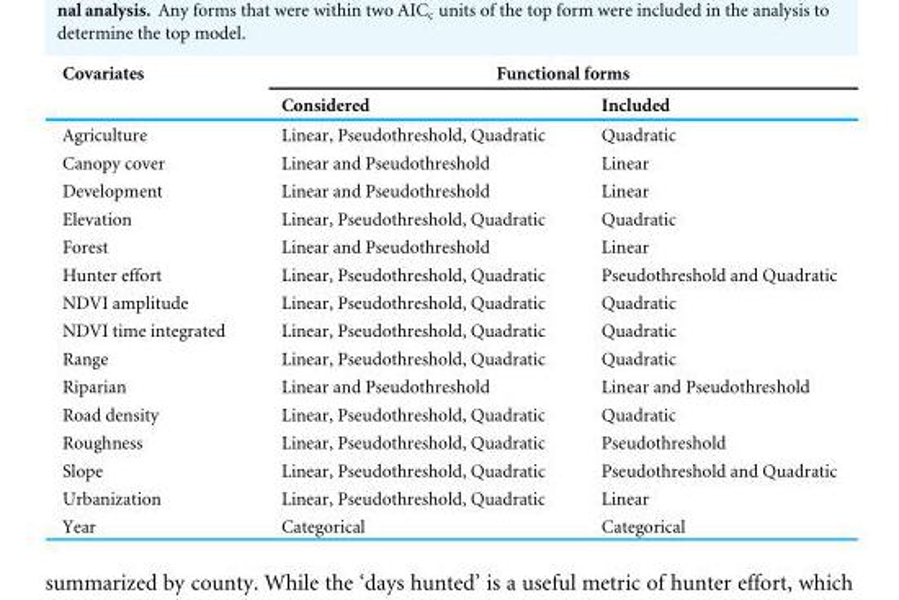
<table><thead><tr><td rowspan="2">Covariates</td><td colspan="2">Functional forms</td></tr><tr><td>Considered</td><td>Included</td></tr></thead><tbody><tr><td>Agriculture</td><td>Linear, Pseudothreshold, Quadratic</td><td>Quadratic</td></tr><tr><td>Canopy cover</td><td>Linear and Pseudothreshold</td><td>Linear</td></tr><tr><td>Development</td><td>Linear and Pseudothreshold</td><td>Linear</td></tr><tr><td>Elevation</td><td>Linear, Pseudothreshold, Quadratic</td><td>Quadratic</td></tr><tr><td>Forest</td><td>Linear and Pseudothreshold</td><td>Linear</td></tr><tr><td>Hunter effort</td><td>Linear, Pseudothreshold, Quadratic</td><td>Pseudothreshold and Quadratic</td></tr><tr><td>NDVI amplitude</td><td>Linear, Pseudothreshold, Quadratic</td><td>Quadratic</td></tr><tr><td>NDVI time integrated</td><td>Linear, Pseudothreshold, Quadratic</td><td>Quadratic</td></tr><tr><td>Range</td><td>Linear, Pseudothreshold, Quadratic</td><td>Quadratic</td></tr><tr><td>Riparian</td><td>Linear and Pseudothreshold</td><td>Linear and Pseudothreshold</td></tr><tr><td>Road density</td><td>Linear, Pseudothreshold, Quadratic</td><td>Quadratic</td></tr><tr><td>Roughness</td><td>Linear, Pseudothreshold, Quadratic</td><td>Pseudothreshold</td></tr><tr><td>Slope</td><td>Linear, Pseudothreshold, Quadratic</td><td>Pseudothreshold and Quadratic</td></tr><tr><td>Urbanization</td><td>Linear, Pseudothreshold, Quadratic</td><td>Linear</td></tr><tr><td>Year</td><td>Categorical</td><td>Categorical</td></tr></tbody></table>